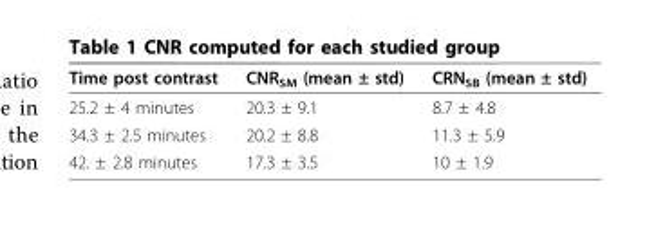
<table><thead><tr><td>Time post contrast</td><td>CNR<sub>SM</sub> (mean ± std)</td><td>CRN<sub>SB</sub> (mean ± std)</td></tr></thead><tbody><tr><td>25.2 ± 4 minutes</td><td>20.3 ± 9.1</td><td>8.7 ± 4.8</td></tr><tr><td>34.3 ± 2.5 minutes</td><td>20.2 ± 8.8</td><td>11.3 ± 5.9</td></tr><tr><td>42. ± 2.8 minutes</td><td>17.3 ± 3.5</td><td>10 ± 1.9</td></tr></tbody></table>